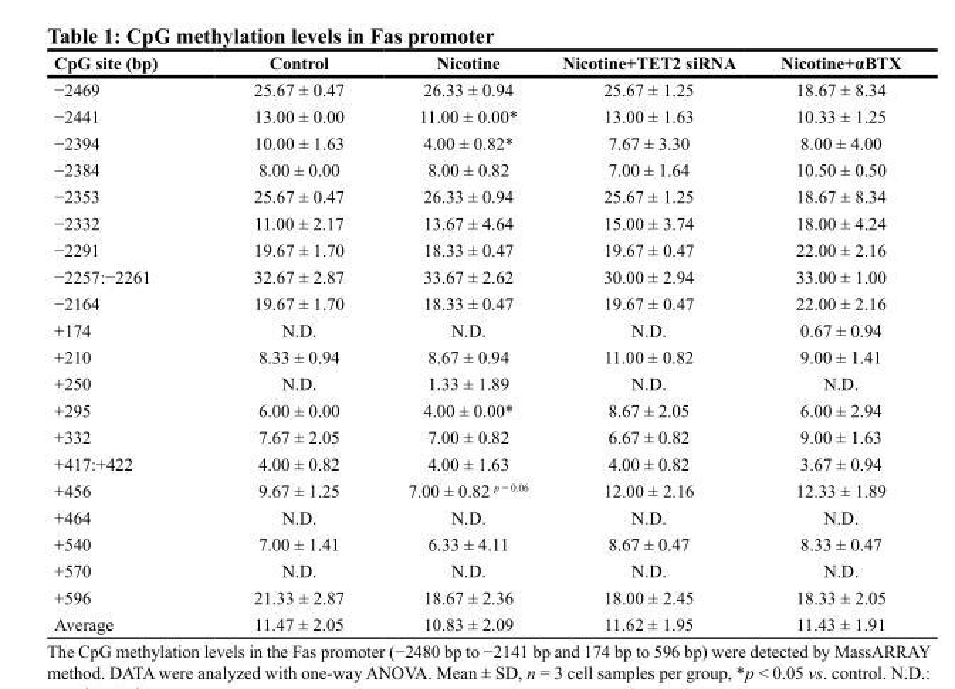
<table><thead><tr><td>CpG site (bp)</td><td>Control</td><td>Nicotine</td><td>Nicotine+TET2 siRNA</td><td>Nicotine+αBTX</td></tr></thead><tbody><tr><td>−2469</td><td>25.67 ± 0.47</td><td>26.33 ± 0.94</td><td>25.67 ± 1.25</td><td>18.67 ± 8.34</td></tr><tr><td>−2441</td><td>13.00 ± 0.00</td><td>11.00 ± 0.00*</td><td>13.00 ± 1.63</td><td>10.33 ± 1.25</td></tr><tr><td>−2394</td><td>10.00 ± 1.63</td><td>4.00 ± 0.82*</td><td>7.67 ± 3.30</td><td>8.00 ± 4.00</td></tr><tr><td>−2384</td><td>8.00 ± 0.00</td><td>8.00 ± 0.82</td><td>7.00 ± 1.64</td><td>10.50 ± 0.50</td></tr><tr><td>−2353</td><td>25.67 ± 0.47</td><td>26.33 ± 0.94</td><td>25.67 ± 1.25</td><td>18.67 ± 8.34</td></tr><tr><td>−2332</td><td>11.00 ± 2.17</td><td>13.67 ± 4.64</td><td>15.00 ± 3.74</td><td>18.00 ± 4.24</td></tr><tr><td>−2291</td><td>19.67 ± 1.70</td><td>18.33 ± 0.47</td><td>19.67 ± 0.47</td><td>22.00 ± 2.16</td></tr><tr><td>−2257:−2261</td><td>32.67 ± 2.87</td><td>33.67 ± 2.62</td><td>30.00 ± 2.94</td><td>33.00 ± 1.00</td></tr><tr><td>−2164</td><td>19.67 ± 1.70</td><td>18.33 ± 0.47</td><td>19.67 ± 0.47</td><td>22.00 ± 2.16</td></tr><tr><td>+174</td><td>N.D.</td><td>N.D.</td><td>N.D.</td><td>0.67 ± 0.94</td></tr><tr><td>+210</td><td>8.33 ± 0.94</td><td>8.67 ± 0.94</td><td>11.00 ± 0.82</td><td>9.00 ± 1.41</td></tr><tr><td>+250</td><td>N.D.</td><td>1.33 ± 1.89</td><td>N.D.</td><td>N.D.</td></tr><tr><td>+295</td><td>6.00 ± 0.00</td><td>4.00 ± 0.00*</td><td>8.67 ± 2.05</td><td>6.00 ± 2.94</td></tr><tr><td>+332</td><td>7.67 ± 2.05</td><td>7.00 ± 0.82</td><td>6.67 ± 0.82</td><td>9.00 ± 1.63</td></tr><tr><td>+417:+422</td><td>4.00 ± 0.82</td><td>4.00 ± 1.63</td><td>4.00 ± 0.82</td><td>3.67 ± 0.94</td></tr><tr><td>+456</td><td>9.67 ± 1.25</td><td>7.00 ± 0.82 <sup>p = 0.06</sup></td><td>12.00 ± 2.16</td><td>12.33 ± 1.89</td></tr><tr><td>+464</td><td>N.D.</td><td>N.D.</td><td>N.D.</td><td>N.D.</td></tr><tr><td>+540</td><td>7.00 ± 1.41</td><td>6.33 ± 4.11</td><td>8.67 ± 0.47</td><td>8.33 ± 0.47</td></tr><tr><td>+570</td><td>N.D.</td><td>N.D.</td><td>N.D.</td><td>N.D.</td></tr><tr><td>+596</td><td>21.33 ± 2.87</td><td>18.67 ± 2.36</td><td>18.00 ± 2.45</td><td>18.33 ± 2.05</td></tr><tr><td>Average</td><td>11.47 ± 2.05</td><td>10.83 ± 2.09</td><td>11.62 ± 1.95</td><td>11.43 ± 1.91</td></tr></tbody></table>